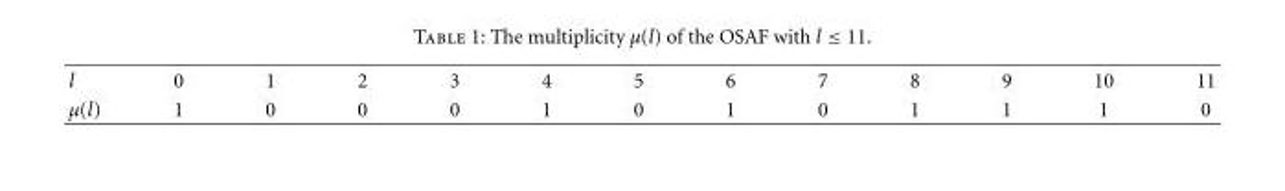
<table><tbody><tr><td>l</td><td>0</td><td>1</td><td>2</td><td>3</td><td>4</td><td>5</td><td>6</td><td>7</td><td>8</td><td>9</td><td>10</td><td>11</td></tr><tr><td>μ(l)</td><td>1</td><td>0</td><td>0</td><td>0</td><td>1</td><td>0</td><td>1</td><td>0</td><td>1</td><td>1</td><td>1</td><td>0</td></tr></tbody></table>